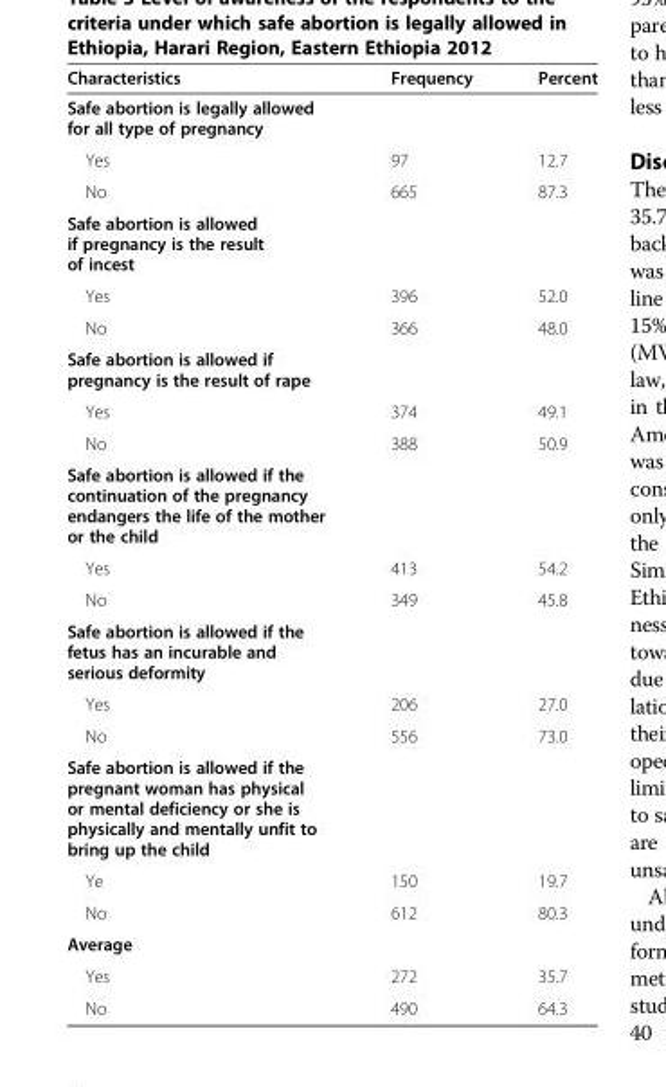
<table><thead><tr><td>Characteristics</td><td>Frequency</td><td>Percent</td></tr></thead><tbody><tr><td colspan="3">Safe abortion is legally allowed for all type of pregnancy</td></tr><tr><td>Yes</td><td>97</td><td>12.7</td></tr><tr><td>No</td><td>665</td><td>87.3</td></tr><tr><td colspan="3">Safe abortion is allowed if pregnancy is the result of incest</td></tr><tr><td>Yes</td><td>396</td><td>52.0</td></tr><tr><td>No</td><td>366</td><td>48.0</td></tr><tr><td colspan="3">Safe abortion is allowed if pregnancy is the result of rape</td></tr><tr><td>Yes</td><td>374</td><td>49.1</td></tr><tr><td>No</td><td>388</td><td>50.9</td></tr><tr><td colspan="3">Safe abortion is allowed if the continuation of the pregnancy endangers the life of the mother or the child</td></tr><tr><td>Yes</td><td>413</td><td>54.2</td></tr><tr><td>No</td><td>349</td><td>45.8</td></tr><tr><td colspan="3">Safe abortion is allowed if the fetus has an incurable and serious deformity</td></tr><tr><td>Yes</td><td>206</td><td>27.0</td></tr><tr><td>No</td><td>556</td><td>73.0</td></tr><tr><td colspan="3">Safe abortion is allowed if the pregnant woman has physical or mental deficiency or she is physically and mentally unfit to bring up the child</td></tr><tr><td>Ye</td><td>150</td><td>19.7</td></tr><tr><td>No</td><td>612</td><td>80.3</td></tr><tr><td colspan="3">Average</td></tr><tr><td>Yes</td><td>272</td><td>35.7</td></tr><tr><td>No</td><td>490</td><td>64.3</td></tr></tbody></table>